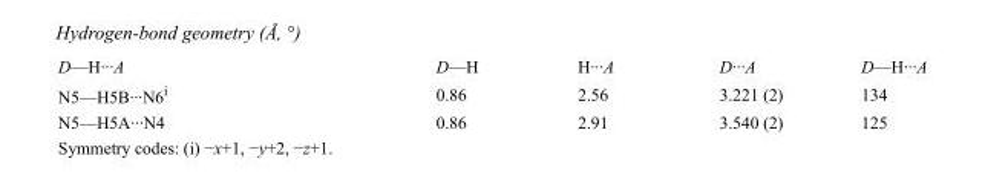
<table><tbody><tr><td>D—H···A</td><td>D—H</td><td>H···A</td><td>D···A</td><td>D—H···A</td></tr><tr><td>N5—H5B···N6<sup>i</sup></td><td>0.86</td><td>2.56</td><td>3.221 (2)</td><td>134</td></tr><tr><td>N5—H5A···N4</td><td>0.86</td><td>2.91</td><td>3.540 (2)</td><td>125</td></tr></tbody></table>